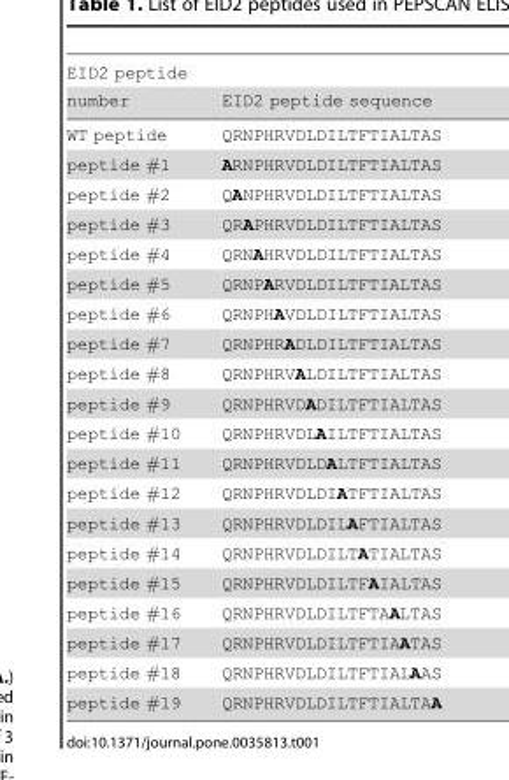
<table><thead><tr><td rowspan="2">EID2 peptide number</td><td rowspan="2">EID2 peptide sequence</td></tr><tr></tr></thead><tbody><tr><td>WT peptide</td><td>QRNPHRVDLDILTFTIALTAS</td></tr><tr><td>peptide #1</td><td>ARNPHRVDLDILTFTIALTAS</td></tr><tr><td>peptide #2</td><td>QANPHRVDLDILTFTIALTAS</td></tr><tr><td>peptide #3</td><td>QRAPHRVDLDILTFTIALTAS</td></tr><tr><td>peptide #4</td><td>QRNAHRVDLDILTFTIALTAS</td></tr><tr><td>peptide #5</td><td>QRNPARVDLDILTFTIALTAS</td></tr><tr><td>peptide #6</td><td>QRNPHAVDLDILTFTIALTAS</td></tr><tr><td>peptide #7</td><td>QRNPHRADLDILTFTIALTAS</td></tr><tr><td>peptide #8</td><td>QRNPHRVALDILTFTIALTAS</td></tr><tr><td>peptide #9</td><td>QRNPHRVDADILTFTIALTAS</td></tr><tr><td>peptide #10</td><td>QRNPHRVDLAILTFTIALTAS</td></tr><tr><td>peptide #11</td><td>QRNPHRVDLDALTFTIALTAS</td></tr><tr><td>peptide #12</td><td>QRNPHRVDLDIATFTIALTAS</td></tr><tr><td>peptide #13</td><td>QRNPHRVDLDILAFTIALTAS</td></tr><tr><td>peptide #14</td><td>QRNPHRVDLDILTATIALTAS</td></tr><tr><td>peptide #15</td><td>QRNPHRVDLDILTFAIALTAS</td></tr><tr><td>peptide #16</td><td>QRNPHRVDLDILTFTAALTAS</td></tr><tr><td>peptide #17</td><td>QRNPHRVDLDILTFTIAATAS</td></tr><tr><td>peptide #18</td><td>QRNPHRVDLDILTFTIALAAS</td></tr><tr><td>peptide #19</td><td>QRNPHRVDLDILTFTIALTAA</td></tr></tbody></table>